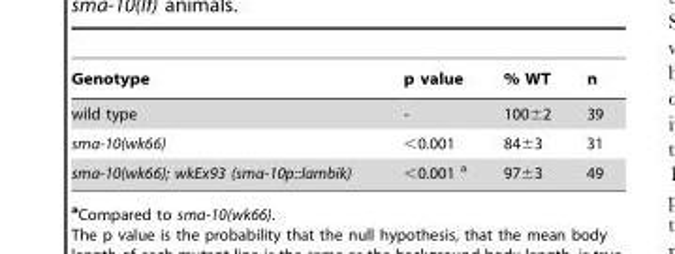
<table><thead><tr><td>Genotype</td><td>p value</td><td>% WT</td><td>n</td></tr></thead><tbody><tr><td>wild type</td><td>-</td><td>100±2</td><td>39</td></tr><tr><td>sma-10(wk66)</td><td>&lt;0.001</td><td>84±3</td><td>31</td></tr><tr><td>sma-10(wk66); wkEx93 (sma-10p::lambik)</td><td>&lt;0.001 a</td><td>97±3</td><td>49</td></tr></tbody></table>